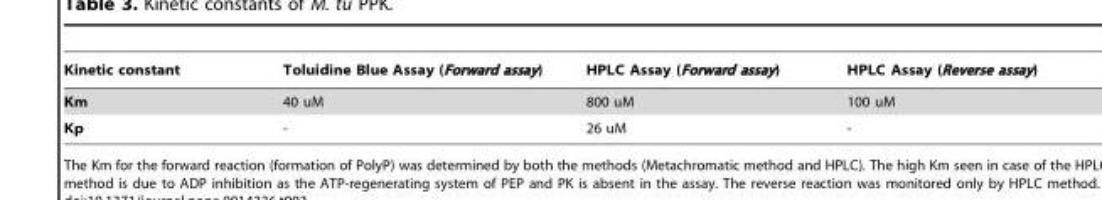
<table><thead><tr><td>Kinetic constant</td><td>Toluidine Blue Assay (Forward assay)</td><td>HPLC Assay (Forward assay)</td><td>HPLC Assay (Reverse assay)</td></tr></thead><tbody><tr><td>Km</td><td>40 uM</td><td>800 uM</td><td>100 uM</td></tr><tr><td>Kp</td><td>-</td><td>26 uM</td><td>-</td></tr></tbody></table>